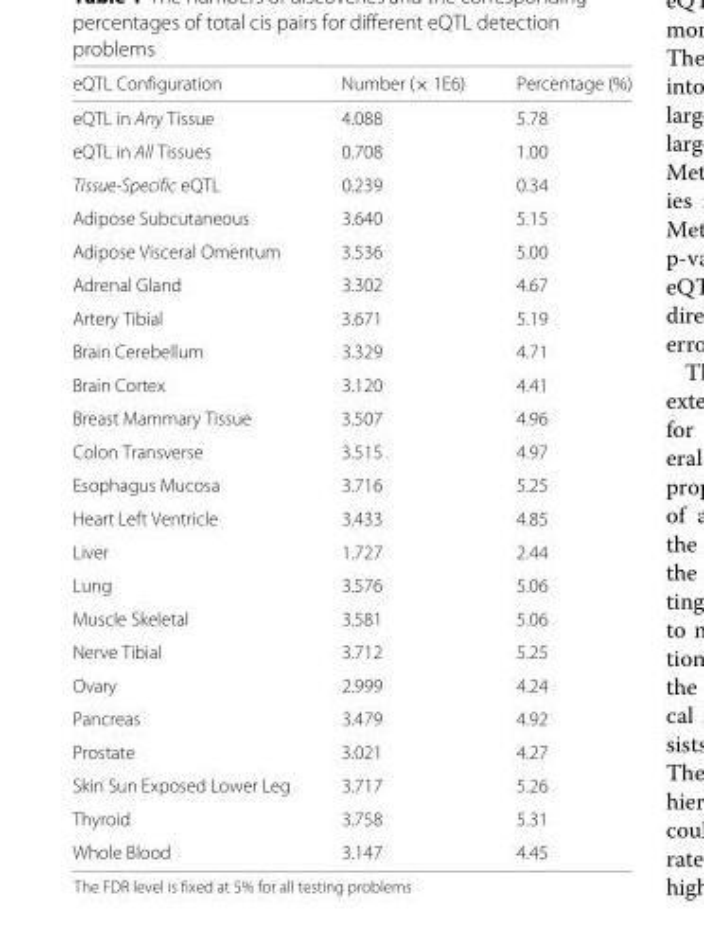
<table><thead><tr><td>eQTL Configuration</td><td>Number (× 1E6)</td><td>Percentage (%)</td></tr></thead><tbody><tr><td>eQTL in Any Tissue</td><td>4.088</td><td>5.78</td></tr><tr><td>eQTL in All Tissues</td><td>0.708</td><td>1.00</td></tr><tr><td>Tissue-Specific eQTL</td><td>0.239</td><td>0.34</td></tr><tr><td>Adipose Subcutaneous</td><td>3.640</td><td>5.15</td></tr><tr><td>Adipose Visceral Omentum</td><td>3.536</td><td>5.00</td></tr><tr><td>Adrenal Gland</td><td>3.302</td><td>4.67</td></tr><tr><td>Artery Tibial</td><td>3.671</td><td>5.19</td></tr><tr><td>Brain Cerebellum</td><td>3.329</td><td>4.71</td></tr><tr><td>Brain Cortex</td><td>3.120</td><td>4.41</td></tr><tr><td>Breast Mammary Tissue</td><td>3.507</td><td>4.96</td></tr><tr><td>Colon Transverse</td><td>3.515</td><td>4.97</td></tr><tr><td>Esophagus Mucosa</td><td>3.716</td><td>5.25</td></tr><tr><td>Heart Left Ventricle</td><td>3.433</td><td>4.85</td></tr><tr><td>Liver</td><td>1.727</td><td>2.44</td></tr><tr><td>Lung</td><td>3.576</td><td>5.06</td></tr><tr><td>Muscle Skeletal</td><td>3.581</td><td>5.06</td></tr><tr><td>Nerve Tibial</td><td>3.712</td><td>5.25</td></tr><tr><td>Ovary</td><td>2.999</td><td>4.24</td></tr><tr><td>Pancreas</td><td>3.479</td><td>4.92</td></tr><tr><td>Prostate</td><td>3.021</td><td>4.27</td></tr><tr><td>Skin Sun Exposed Lower Leg</td><td>3.717</td><td>5.26</td></tr><tr><td>Thyroid</td><td>3.758</td><td>5.31</td></tr><tr><td>Whole Blood</td><td>3.147</td><td>4.45</td></tr></tbody></table>